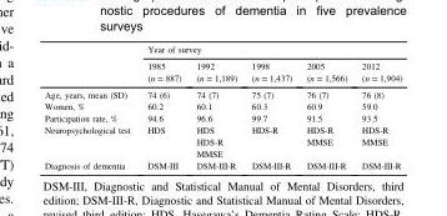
<table><thead><tr><td rowspan="2"></td><td colspan="5">Year of survey</td></tr><tr><td>1985 (n = 887)</td><td>1992 (n = 1,189)</td><td>1998 (n = 1,437)</td><td>2005 (n = 1,566)</td><td>2012 (n = 1,904)</td></tr></thead><tbody><tr><td>Age, years, mean (SD)</td><td>74 (6)</td><td>74 (7)</td><td>75 (7)</td><td>76 (7)</td><td>76 (8)</td></tr><tr><td>Women, %</td><td>60.2</td><td>60.1</td><td>60.3</td><td>60.9</td><td>59.0</td></tr><tr><td>Participation rate, %</td><td>94.6</td><td>96.6</td><td>99.7</td><td>91.5</td><td>93.5</td></tr><tr><td rowspan="3">Neuropsychological test</td><td>HDS</td><td>HDS</td><td>HDS-R</td><td>HDS-R</td><td>HDS-R</td></tr><tr><td></td><td>HDS-R</td><td></td><td>MMSE</td><td>MMSE</td></tr><tr><td></td><td>MMSE</td><td></td><td></td><td></td></tr><tr><td>Diagnosis of dementia</td><td>DSM-III</td><td>DSM-III-R</td><td>DSM-III-R</td><td>DSM-III-R</td><td>DSM-III-R</td></tr></tbody></table>